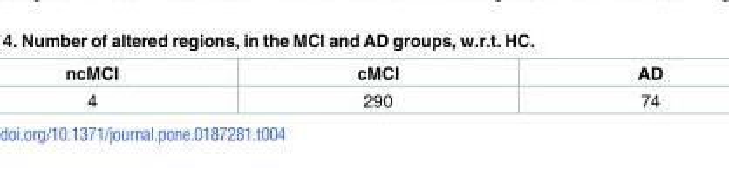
<table><thead><tr><td>ncMCI</td><td>cMCI</td><td>AD</td></tr></thead><tbody><tr><td>4</td><td>290</td><td>74</td></tr></tbody></table>